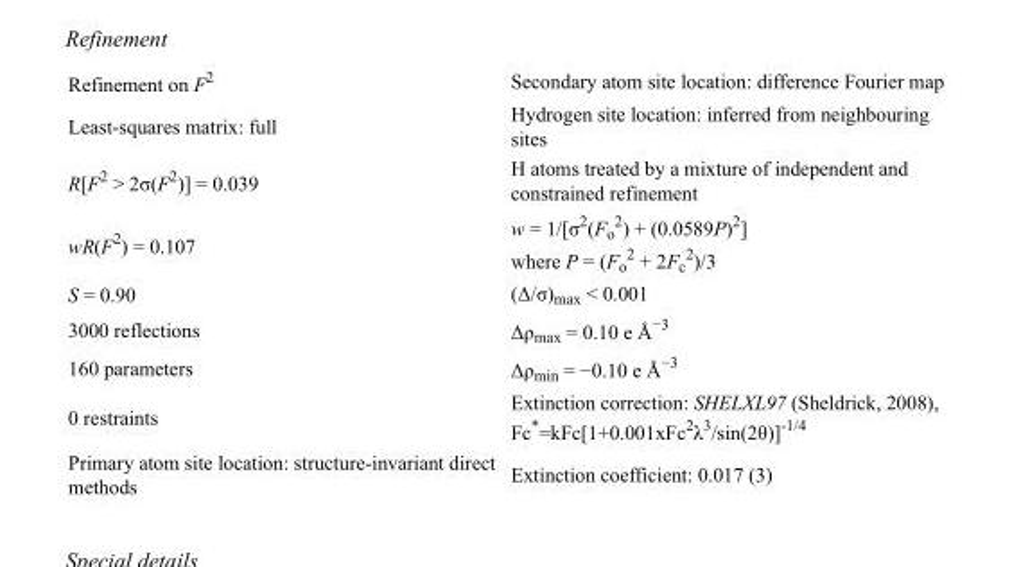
<table><tbody><tr><td>Refinement on F<sup>2</sup></td><td>Secondary atom site location: difference Fourier map</td></tr><tr><td>Least-squares matrix: full</td><td>Hydrogen site location: inferred from neighbouring sites</td></tr><tr><td>R[F<sup>2</sup> &gt; 2σ(F<sup>2</sup>)] = 0.039</td><td>H atoms treated by a mixture of independent and constrained refinement</td></tr><tr><td>wR(F<sup>2</sup>) = 0.107</td><td>w = 1/[σ<sup>2</sup>(F<sub>o</sub> <sup>2</sup>) + (0.0589P)<sup>2</sup>] where P = (F<sub>o</sub> <sup>2</sup> + 2F<sub>c</sub> <sup>2</sup>)/3</td></tr><tr><td>S = 0.90</td><td>(Δ/σ)<sub>max</sub> &lt; 0.001</td></tr><tr><td>3000 reflections</td><td>Δρ<sub>max</sub> = 0.10 e Å<sup>−3</sup></td></tr><tr><td>160 parameters</td><td>Δρ<sub>min</sub> = −0.10 e Å<sup>−3</sup></td></tr><tr><td>0 restraints</td><td>Extinction correction: SHELXL97 (Sheldrick, 2008), Fc*=kFc[1+0.001xFc<sup>2</sup>λ<sup>3</sup>/sin(2θ)]<sup>-1/4</sup></td></tr><tr><td>Primary atom site location: structure-invariant direct methods</td><td>Extinction coefficient: 0.017 (3)</td></tr></tbody></table>